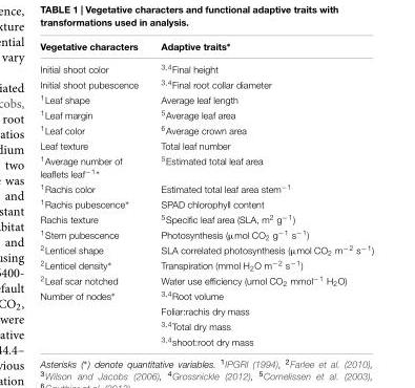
<table><thead><tr><td>Vegetative characters</td><td>Adaptive traits∗</td></tr></thead><tbody><tr><td>Initial shoot color</td><td><sup>3,4</sup>Final height</td></tr><tr><td>Initial shoot pubescence</td><td><sup>3,4</sup>Final root collar diameter</td></tr><tr><td><sup>1</sup>Leaf shape</td><td>Average leaf length</td></tr><tr><td><sup>1</sup>Leaf margin</td><td><sup>5</sup>Average leaf area</td></tr><tr><td><sup>1</sup>Leaf color</td><td><sup>6</sup>Average crown area</td></tr><tr><td>Leaf texture</td><td>Total leaf number</td></tr><tr><td><sup>1</sup>Average number of leaflets leaf<sup>−1∗</sup></td><td><sup>5</sup>Estimated total leaf area</td></tr><tr><td><sup>1</sup>Rachis color</td><td>Estimated total leaf area stem<sup>−1</sup></td></tr><tr><td><sup>1</sup>Rachis pubescence∗</td><td>SPAD chlorophyll content</td></tr><tr><td>Rachis texture</td><td><sup>5</sup>Specific leaf area (SLA, m<sup>2</sup> g<sup>−1</sup>)</td></tr><tr><td><sup>1</sup>Stem pubescence</td><td>Photosynthesis (µmol CO<sub>2</sub> g<sup>−1</sup> s<sup>−1</sup>)</td></tr><tr><td><sup>2</sup>Lenticel shape</td><td>SLA correlated photosynthesis (µmol CO<sub>2</sub> m<sup>−2</sup> s<sup>−1</sup>)</td></tr><tr><td><sup>2</sup>Lenticel density∗</td><td>Transpiration (mmol H<sub>2</sub>O m<sup>−2</sup> s<sup>−1</sup>)</td></tr><tr><td><sup>2</sup>Leaf scar notched</td><td>Water use efficiency (umol CO<sub>2</sub> mmol<sup>−1</sup> H<sub>2</sub>O)</td></tr><tr><td rowspan="4">Number of nodes∗</td><td><sup>3,4</sup>Root volume</td></tr><tr><td>Foliar:rachis dry mass</td></tr><tr><td><sup>3,4</sup>Total dry mass</td></tr><tr><td><sup>3,4</sup>shoot:root dry mass</td></tr></tbody></table>